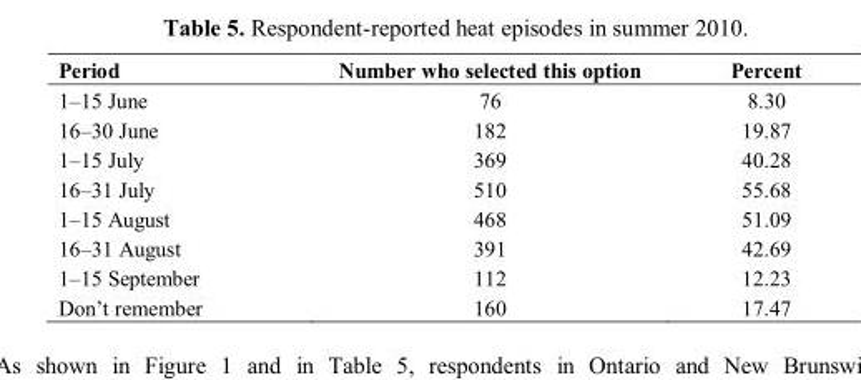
<table><thead><tr><td>Period</td><td>Number who selected this option</td><td>Percent</td></tr></thead><tbody><tr><td>1–15 June</td><td>76</td><td>8.30</td></tr><tr><td>16–30 June</td><td>182</td><td>19.87</td></tr><tr><td>1–15 July</td><td>369</td><td>40.28</td></tr><tr><td>16–31 July</td><td>510</td><td>55.68</td></tr><tr><td>1–15 August</td><td>468</td><td>51.09</td></tr><tr><td>16–31 August</td><td>391</td><td>42.69</td></tr><tr><td>1–15 September</td><td>112</td><td>12.23</td></tr><tr><td>Don’t remember</td><td>160</td><td>17.47</td></tr></tbody></table>